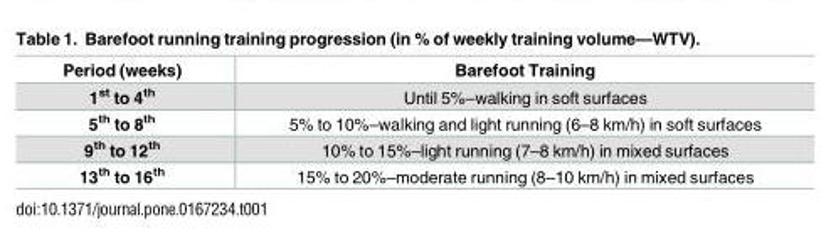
<table><thead><tr><td>Period (weeks)</td><td>Barefoot Training</td></tr></thead><tbody><tr><td>1<sup>st</sup> to 4<sup>th</sup></td><td>Until 5%–walking in soft surfaces</td></tr><tr><td>5<sup>th</sup> to 8<sup>th</sup></td><td>5% to 10%–walking and light running (6–8 km/h) in soft surfaces</td></tr><tr><td>9<sup>th</sup> to 12<sup>th</sup></td><td>10% to 15%–light running (7–8 km/h) in mixed surfaces</td></tr><tr><td>13<sup>th</sup> to 16<sup>th</sup></td><td>15% to 20%–moderate running (8–10 km/h) in mixed surfaces</td></tr></tbody></table>